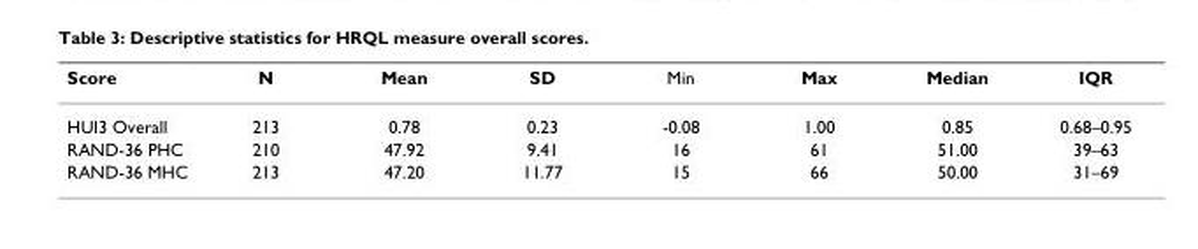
<table><thead><tr><td>Score</td><td>N</td><td>Mean</td><td>SD</td><td>Min</td><td>Max</td><td>Median</td><td>IQR</td></tr></thead><tbody><tr><td>HUI3 Overall</td><td>213</td><td>0.78</td><td>0.23</td><td>-0.08</td><td>1.00</td><td>0.85</td><td>0.68–0.95</td></tr><tr><td>RAND-36 PHC</td><td>210</td><td>47.92</td><td>9.41</td><td>16</td><td>61</td><td>51.00</td><td>39–63</td></tr><tr><td>RAND-36 MHC</td><td>213</td><td>47.20</td><td>11.77</td><td>15</td><td>66</td><td>50.00</td><td>31–69</td></tr></tbody></table>